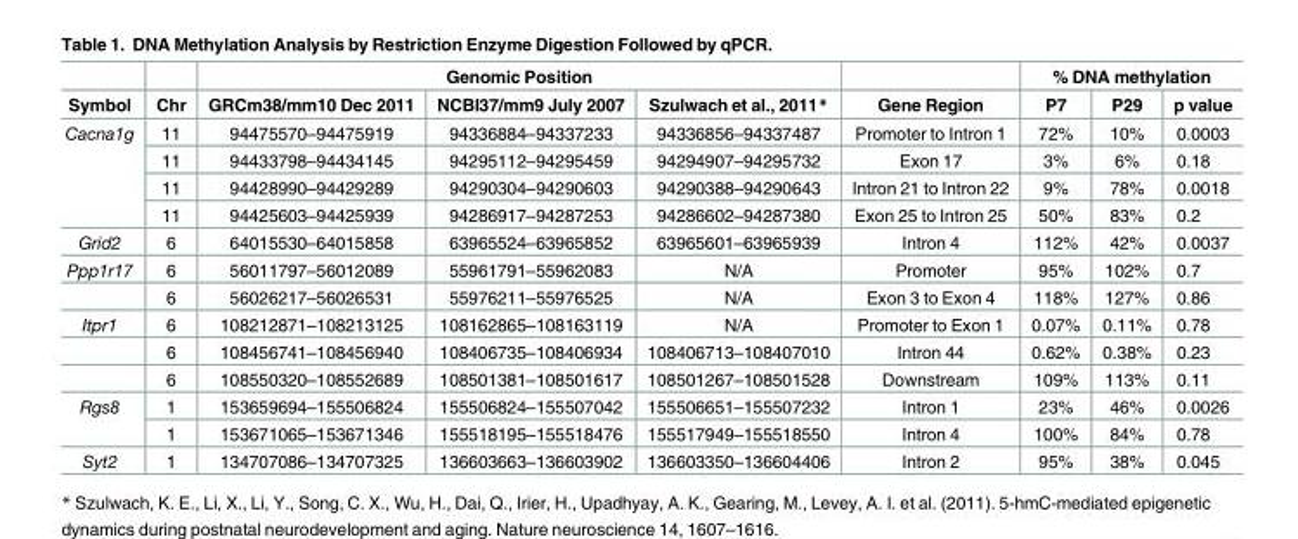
<table><thead><tr><td rowspan="2">Symbol</td><td rowspan="2">Chr</td><td colspan="3">Genomic Position</td><td rowspan="2">Gene Region</td><td colspan="3">% DNA methylation</td></tr><tr><td>GRCm38/mm10 Dec 2011</td><td>NCBI37/mm9 July 2007</td><td>Szulwach et al., 2011*</td><td>P7</td><td>P29</td><td>p value</td></tr></thead><tbody><tr><td rowspan="4">Cacna1g</td><td>11</td><td>94475570–94475919</td><td>94336884–94337233</td><td>94336856–94337487</td><td>Promoter to Intron 1</td><td>72%</td><td>10%</td><td>0.0003</td></tr><tr><td>11</td><td>94433798–94434145</td><td>94295112–94295459</td><td>94294907–94295732</td><td>Exon 17</td><td>3%</td><td>6%</td><td>0.18</td></tr><tr><td>11</td><td>94428990–94429289</td><td>94290304–94290603</td><td>94290388–94290643</td><td>Intron 21 to Intron 22</td><td>9%</td><td>78%</td><td>0.0018</td></tr><tr><td>11</td><td>94425603–94425939</td><td>94286917–94287253</td><td>94286602–94287380</td><td>Exon 25 to Intron 25</td><td>50%</td><td>83%</td><td>0.2</td></tr><tr><td>Grid2</td><td>6</td><td>64015530–64015858</td><td>63965524–63965852</td><td>63965601–63965939</td><td>Intron 4</td><td>112%</td><td>42%</td><td>0.0037</td></tr><tr><td rowspan="2">Ppp1r17</td><td>6</td><td>56011797–56012089</td><td>55961791–55962083</td><td>N/A</td><td>Promoter</td><td>95%</td><td>102%</td><td>0.7</td></tr><tr><td>6</td><td>56026217–56026531</td><td>55976211–55976525</td><td>N/A</td><td>Exon 3 to Exon 4</td><td>118%</td><td>127%</td><td>0.86</td></tr><tr><td rowspan="3">Itpr1</td><td>6</td><td>108212871–108213125</td><td>108162865–108163119</td><td>N/A</td><td>Promoter to Exon 1</td><td>0.07%</td><td>0.11%</td><td>0.78</td></tr><tr><td>6</td><td>108456741–108456940</td><td>108406735–108406934</td><td>108406713–108407010</td><td>Intron 44</td><td>0.62%</td><td>0.38%</td><td>0.23</td></tr><tr><td>6</td><td>108550320–108552689</td><td>108501381–108501617</td><td>108501267–108501528</td><td>Downstream</td><td>109%</td><td>113%</td><td>0.11</td></tr><tr><td rowspan="2">Rgs8</td><td>1</td><td>153659694–155506824</td><td>155506824–155507042</td><td>155506651–155507232</td><td>Intron 1</td><td>23%</td><td>46%</td><td>0.0026</td></tr><tr><td>1</td><td>153671065–153671346</td><td>155518195–155518476</td><td>155517949–155518550</td><td>Intron 4</td><td>100%</td><td>84%</td><td>0.78</td></tr><tr><td>Syt2</td><td>1</td><td>134707086–134707325</td><td>136603663–136603902</td><td>136603350–136604406</td><td>Intron 2</td><td>95%</td><td>38%</td><td>0.045</td></tr></tbody></table>